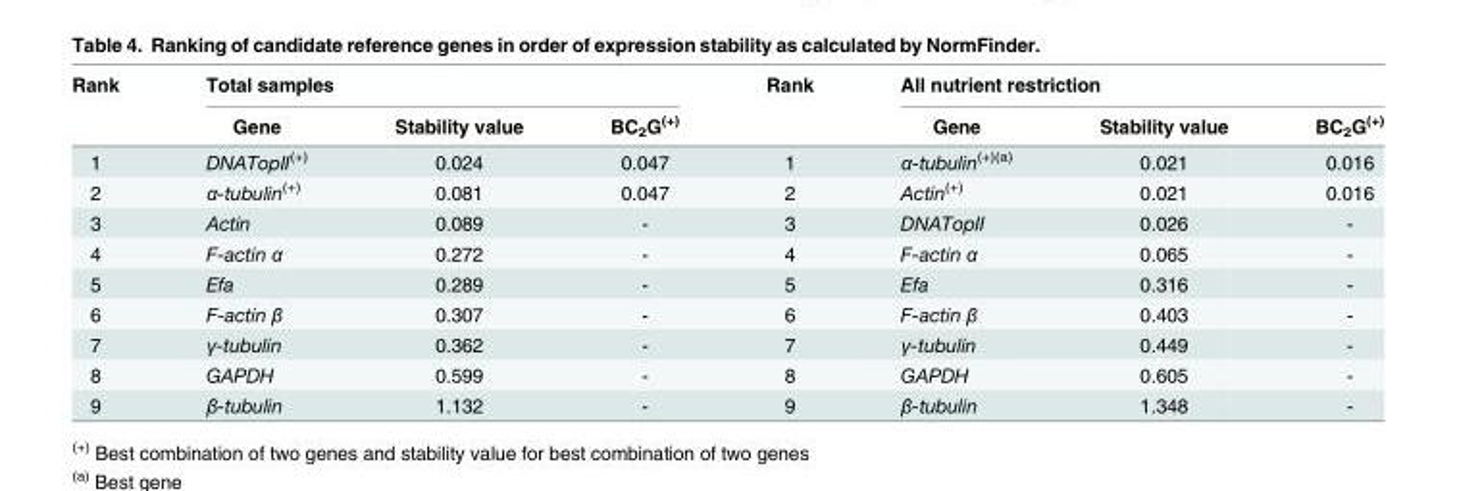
<table><thead><tr><td rowspan="2">Rank</td><td colspan="3">Total samples</td><td rowspan="2">Rank</td><td colspan="3">All nutrient restriction</td></tr><tr><td>Gene</td><td>Stability value</td><td>BC<sub>2</sub>G<sup>(+)</sup></td><td>Gene</td><td>Stability value</td><td>BC<sub>2</sub>G<sup>(+)</sup></td></tr></thead><tbody><tr><td>1</td><td>DNATopII<sup>(+)</sup></td><td>0.024</td><td>0.047</td><td>1</td><td>α-tubulin<sup>(+)(a)</sup></td><td>0.021</td><td>0.016</td></tr><tr><td>2</td><td>α-tubulin<sup>(+)</sup></td><td>0.081</td><td>0.047</td><td>2</td><td>Actin<sup>(+)</sup></td><td>0.021</td><td>0.016</td></tr><tr><td>3</td><td>Actin</td><td>0.089</td><td>-</td><td>3</td><td>DNATopII</td><td>0.026</td><td>-</td></tr><tr><td>4</td><td>F-actin α</td><td>0.272</td><td>-</td><td>4</td><td>F-actin α</td><td>0.065</td><td>-</td></tr><tr><td>5</td><td>Efa</td><td>0.289</td><td>-</td><td>5</td><td>Efa</td><td>0.316</td><td>-</td></tr><tr><td>6</td><td>F-actin β</td><td>0.307</td><td>-</td><td>6</td><td>F-actin β</td><td>0.403</td><td>-</td></tr><tr><td>7</td><td>γ-tubulin</td><td>0.362</td><td>-</td><td>7</td><td>γ-tubulin</td><td>0.449</td><td>-</td></tr><tr><td>8</td><td>GAPDH</td><td>0.599</td><td>-</td><td>8</td><td>GAPDH</td><td>0.605</td><td>-</td></tr><tr><td>9</td><td>β-tubulin</td><td>1.132</td><td>-</td><td>9</td><td>β-tubulin</td><td>1.348</td><td>-</td></tr></tbody></table>